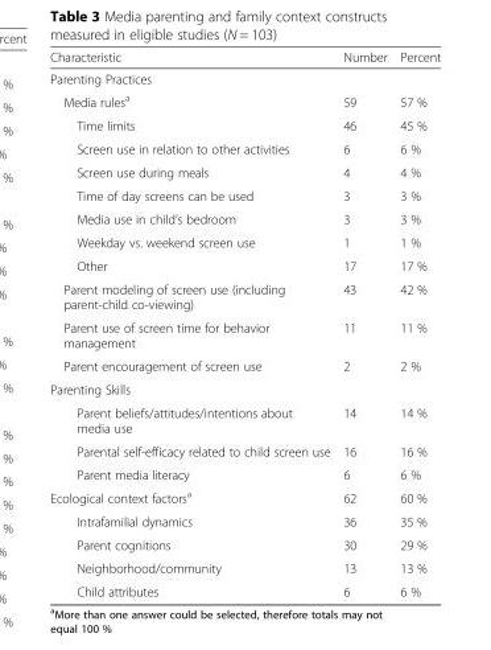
<table><thead><tr><td>Characteristic</td><td>Number</td><td>Percent</td></tr></thead><tbody><tr><td colspan="3">Parenting Practices</td></tr><tr><td>Media rules<sup>a</sup></td><td>59</td><td>57 %</td></tr><tr><td>Time limits</td><td>46</td><td>45 %</td></tr><tr><td>Screen use in relation to other activities</td><td>6</td><td>6 %</td></tr><tr><td>Screen use during meals</td><td>4</td><td>4 %</td></tr><tr><td>Time of day screens can be used</td><td>3</td><td>3 %</td></tr><tr><td>Media use in child’s bedroom</td><td>3</td><td>3 %</td></tr><tr><td>Weekday vs. weekend screen use</td><td>1</td><td>1 %</td></tr><tr><td>Other</td><td>17</td><td>17 %</td></tr><tr><td>Parent modeling of screen use (including parent-child co-viewing)</td><td>43</td><td>42 %</td></tr><tr><td>Parent use of screen time for behavior management</td><td>11</td><td>11 %</td></tr><tr><td>Parent encouragement of screen use</td><td>2</td><td>2 %</td></tr><tr><td colspan="3">Parenting Skills</td></tr><tr><td>Parent beliefs/attitudes/intentions about media use</td><td>14</td><td>14 %</td></tr><tr><td>Parental self-efficacy related to child screen use</td><td>16</td><td>16 %</td></tr><tr><td>Parent media literacy</td><td>6</td><td>6 %</td></tr><tr><td>Ecological context factors<sup>a</sup></td><td>62</td><td>60 %</td></tr><tr><td>Intrafamilial dynamics</td><td>36</td><td>35 %</td></tr><tr><td>Parent cognitions</td><td>30</td><td>29 %</td></tr><tr><td>Neighborhood/community</td><td>13</td><td>13 %</td></tr><tr><td>Child attributes</td><td>6</td><td>6 %</td></tr></tbody></table>